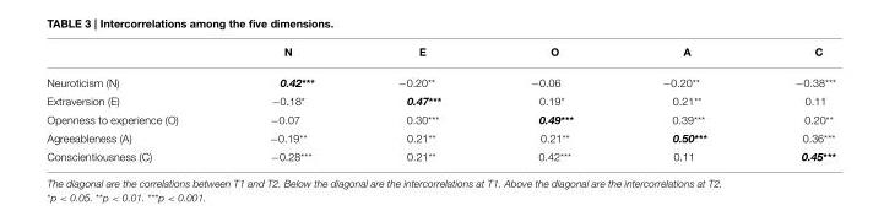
<table><thead><tr><td></td><td>N</td><td>E</td><td>O</td><td>A</td><td>C</td></tr></thead><tbody><tr><td>Neuroticism (N)</td><td>0.42***</td><td>−0.20**</td><td>−0.06</td><td>−0.20**</td><td>−0.38***</td></tr><tr><td>Extraversion (E)</td><td>−0.18*</td><td>0.47***</td><td>0.19*</td><td>0.21**</td><td>0.11</td></tr><tr><td>Openness to experience (O)</td><td>−0.07</td><td>0.30***</td><td>0.49***</td><td>0.39***</td><td>0.20**</td></tr><tr><td>Agreeableness (A)</td><td>−0.19**</td><td>0.21**</td><td>0.21**</td><td>0.50***</td><td>0.36***</td></tr><tr><td>Conscientiousness (C)</td><td>−0.28***</td><td>0.21**</td><td>0.42***</td><td>0.11</td><td>0.45***</td></tr></tbody></table>